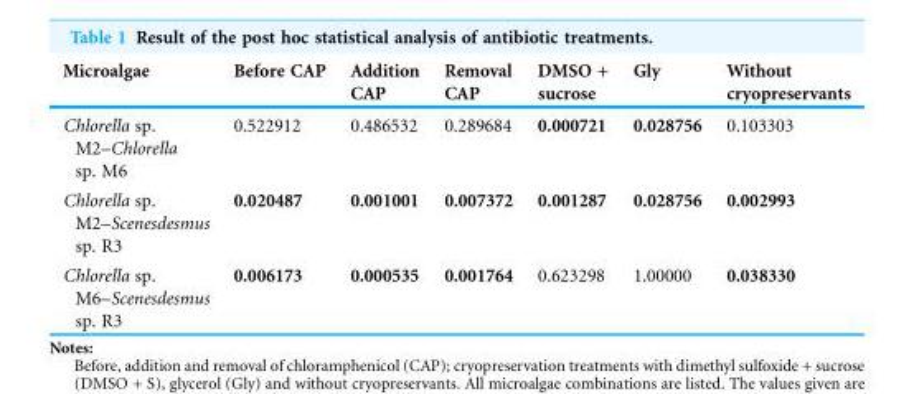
<table><thead><tr><td>Microalgae</td><td>Before CAP</td><td>Addition CAP</td><td>Removal CAP</td><td>DMSO + sucrose</td><td>Gly</td><td>Without cryopreservants</td></tr></thead><tbody><tr><td>Chlorella sp. M2–Chlorella sp. M6</td><td>0.522912</td><td>0.486532</td><td>0.289684</td><td>0.000721</td><td>0.028756</td><td>0.103303</td></tr><tr><td>Chlorella sp. M2–Scenesdesmus sp. R3</td><td>0.020487</td><td>0.001001</td><td>0.007372</td><td>0.001287</td><td>0.028756</td><td>0.002993</td></tr><tr><td>Chlorella sp. M6–Scenesdesmus sp. R3</td><td>0.006173</td><td>0.000535</td><td>0.001764</td><td>0.623298</td><td>1.00000</td><td>0.038330</td></tr></tbody></table>